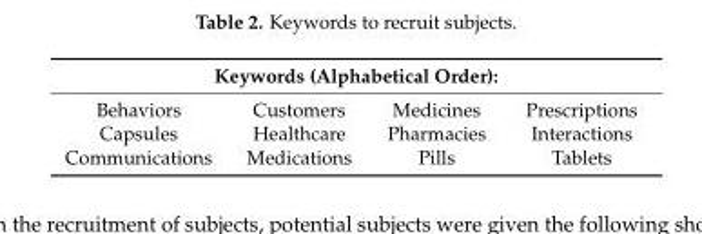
<table><thead><tr><td colspan="4">Keywords (Alphabetical Order):</td></tr><tr><td>Behaviors</td><td>Customers</td><td>Medicines</td><td>Prescriptions</td></tr></thead><tbody><tr><td>Capsules</td><td>Healthcare</td><td>Pharmacies</td><td>Interactions</td></tr><tr><td>Communications</td><td>Medications</td><td>Pills</td><td>Tablets</td></tr></tbody></table>